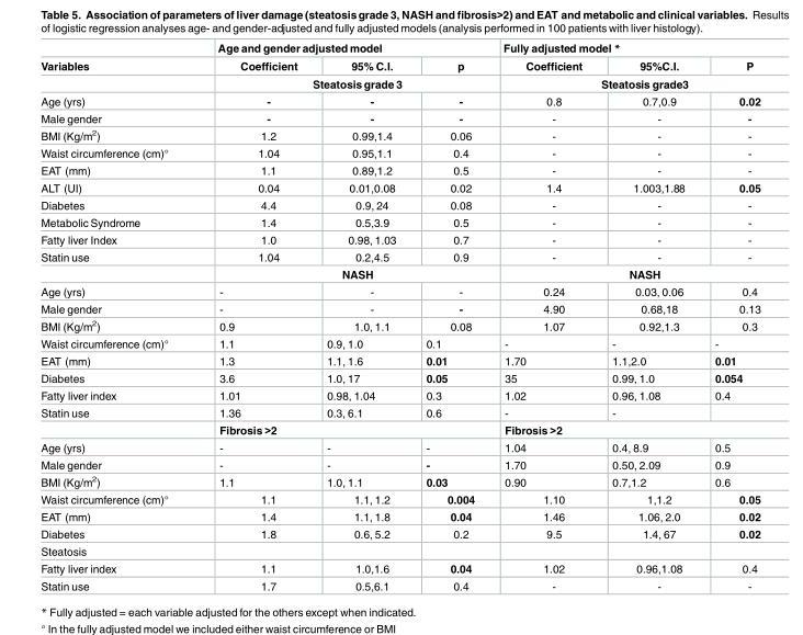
<table><thead><tr><td rowspan="2">Variables</td><td colspan="3">Age and gender adjusted model</td><td colspan="3">Fully adjusted model *</td></tr><tr><td>Coefficient</td><td>95% C.I.</td><td>p</td><td>Coefficient</td><td>95%C.I.</td><td>P</td></tr></thead><tbody><tr><td></td><td colspan="3">Steatosis grade 3</td><td colspan="3">Steatosis grade3</td></tr><tr><td>Age (yrs)</td><td>-</td><td>-</td><td>-</td><td>0.8</td><td>0.7,0.9</td><td>0.02</td></tr><tr><td>Male gender</td><td>-</td><td>-</td><td>-</td><td>-</td><td>-</td><td>-</td></tr><tr><td>BMI (Kg/m<sup>2</sup>)</td><td>1.2</td><td>0.99,1.4</td><td>0.06</td><td>-</td><td>-</td><td>-</td></tr><tr><td>Waist circumference (cm)°</td><td>1.04</td><td>0.95,1.1</td><td>0.4</td><td>-</td><td>-</td><td>-</td></tr><tr><td>EAT (mm)</td><td>1.1</td><td>0.89,1.2</td><td>0.5</td><td>-</td><td>-</td><td>-</td></tr><tr><td>ALT (UI)</td><td>0.04</td><td>0.01,0.08</td><td>0.02</td><td>1.4</td><td>1.003,1.88</td><td>0.05</td></tr><tr><td>Diabetes</td><td>4.4</td><td>0.9, 24</td><td>0.08</td><td>-</td><td>-</td><td>-</td></tr><tr><td>Metabolic Syndrome</td><td>1.4</td><td>0.5,3.9</td><td>0.5</td><td>-</td><td>-</td><td>-</td></tr><tr><td>Fatty liver Index</td><td>1.0</td><td>0.98, 1.03</td><td>0.7</td><td>-</td><td>-</td><td>-</td></tr><tr><td rowspan="2">Statin use</td><td>1.04</td><td>0.2,4.5</td><td>0.9</td><td>-</td><td>-</td><td>-</td></tr><tr><td colspan="3">NASH</td><td colspan="3">NASH</td></tr><tr><td>Age (yrs)</td><td>-</td><td>-</td><td>-</td><td>0.24</td><td>0.03, 0.06</td><td>0.4</td></tr><tr><td>Male gender</td><td>-</td><td>-</td><td>-</td><td>4.90</td><td>0.68,18</td><td>0.13</td></tr><tr><td>BMI (Kg/m<sup>2</sup>)</td><td>0.9</td><td>1.0, 1.1</td><td>0.08</td><td>1.07</td><td>0.92,1.3</td><td>0.3</td></tr><tr><td>Waist circumference (cm)°</td><td>1.1</td><td>0.9, 1.0</td><td>0.1</td><td>-</td><td>-</td><td>-</td></tr><tr><td>EAT (mm)</td><td>1.3</td><td>1.1, 1.6</td><td>0.01</td><td>1.70</td><td>1.1,2.0</td><td>0.01</td></tr><tr><td>Diabetes</td><td>3.6</td><td>1.0, 17</td><td>0.05</td><td>35</td><td>0.99, 1.0</td><td>0.054</td></tr><tr><td>Fatty liver index</td><td>1.01</td><td>0.98, 1.04</td><td>0.3</td><td>1.02</td><td>0.96, 1.08</td><td>0.4</td></tr><tr><td rowspan="2">Statin use</td><td>1.36</td><td>0.3, 6.1</td><td>0.6</td><td>-</td><td>-</td><td></td></tr><tr><td colspan="3">Fibrosis &gt;2</td><td colspan="3">Fibrosis &gt;2</td></tr><tr><td>Age (yrs)</td><td>-</td><td>-</td><td>-</td><td>1.04</td><td>0.4, 8.9</td><td>0.5</td></tr><tr><td>Male gender</td><td>-</td><td>-</td><td>-</td><td>1.70</td><td>0.50, 2.09</td><td>0.9</td></tr><tr><td>BMI (Kg/m<sup>2</sup>)</td><td>1.1</td><td>1.0, 1.1</td><td>0.03</td><td>0.90</td><td>0.7,1.2</td><td>0.6</td></tr><tr><td>Waist circumference (cm)°</td><td>1.1</td><td>1.1, 1.2</td><td>0.004</td><td>1.10</td><td>1,1.2</td><td>0.05</td></tr><tr><td>EAT (mm)</td><td>1.4</td><td>1.1, 1.8</td><td>0.04</td><td>1.46</td><td>1.06, 2.0</td><td>0.02</td></tr><tr><td>Diabetes</td><td>1.8</td><td>0.6, 5.2</td><td>0.2</td><td>9.5</td><td>1.4, 67</td><td>0.02</td></tr><tr><td colspan="7">Steatosis</td></tr><tr><td>Fatty liver index</td><td>1.1</td><td>1.0,1.6</td><td>0.04</td><td>1.02</td><td>0.96,1.08</td><td>0.4</td></tr><tr><td>Statin use</td><td>1.7</td><td>0.5,6.1</td><td>0.4</td><td>-</td><td>-</td><td>-</td></tr></tbody></table>